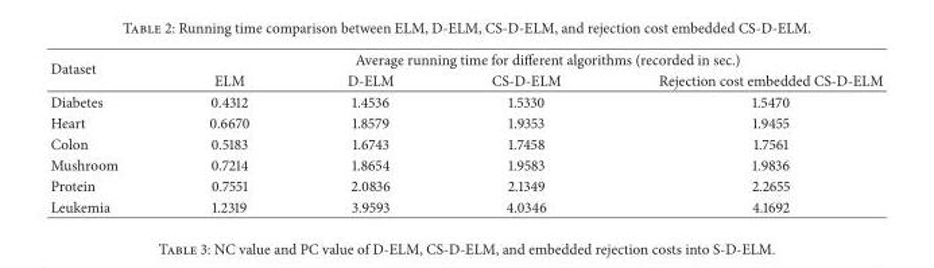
<table><thead><tr><td rowspan="2">Dataset</td><td colspan="4">Average running time for different algorithms (recorded in sec.)</td></tr><tr><td>ELM</td><td>D-ELM</td><td>CS-D-ELM</td><td>Rejection cost embedded CS-D-ELM</td></tr></thead><tbody><tr><td>Diabetes</td><td>0.4312</td><td>1.4536</td><td>1.5330</td><td>1.5470</td></tr><tr><td>Heart</td><td>0.6670</td><td>1.8579</td><td>1.9353</td><td>1.9455</td></tr><tr><td>Colon</td><td>0.5183</td><td>1.6743</td><td>1.7458</td><td>1.7561</td></tr><tr><td>Mushroom</td><td>0.7214</td><td>1.8654</td><td>1.9583</td><td>1.9836</td></tr><tr><td>Protein</td><td>0.7551</td><td>2.0836</td><td>2.1349</td><td>2.2655</td></tr><tr><td>Leukemia</td><td>1.2319</td><td>3.9593</td><td>4.0346</td><td>4.1692</td></tr></tbody></table>